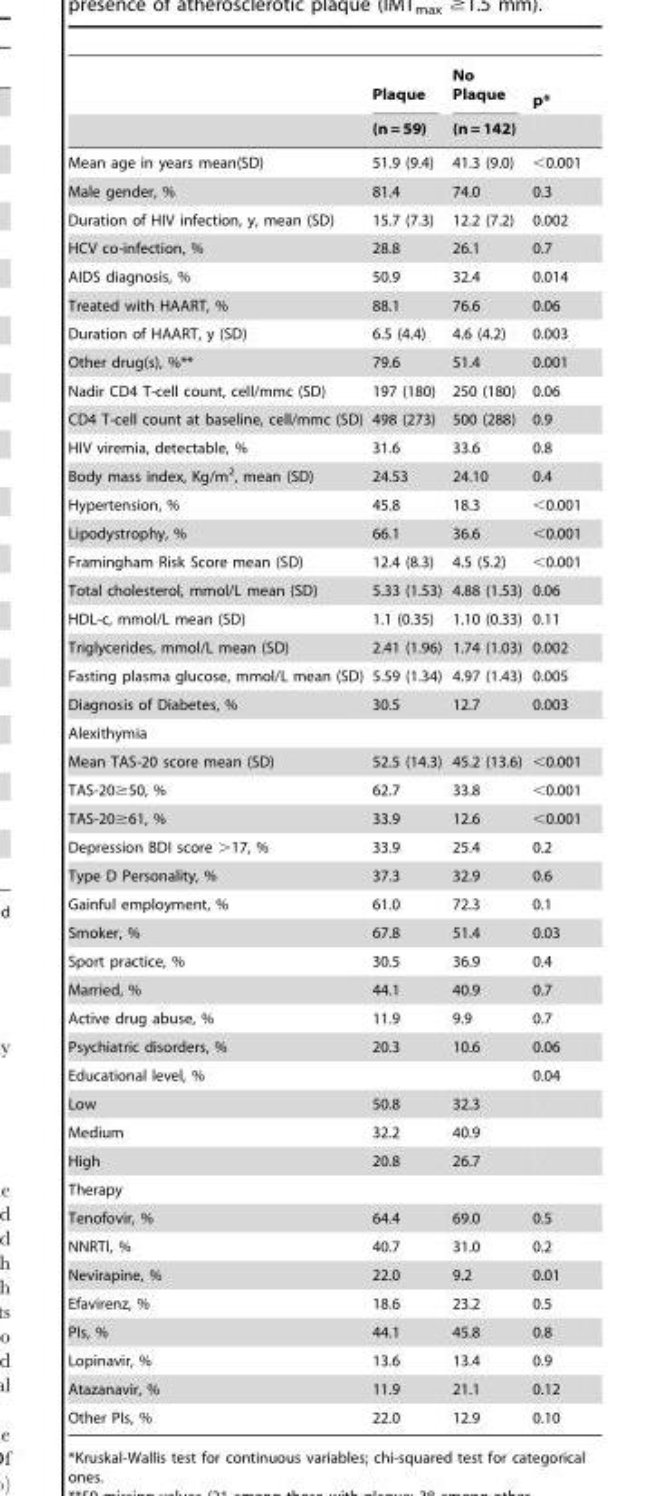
<table><thead><tr><td rowspan="2"></td><td rowspan="2">Plaque (n = 59)</td><td rowspan="2">No Plaque (n = 142)</td><td rowspan="2">p*</td></tr><tr></tr></thead><tbody><tr><td>Mean age in years mean(SD)</td><td>51.9 (9.4)</td><td>41.3 (9.0)</td><td>&lt;0.001</td></tr><tr><td>Male gender, %</td><td>81.4</td><td>74.0</td><td>0.3</td></tr><tr><td>Duration of HIV infection, y, mean (SD)</td><td>15.7 (7.3)</td><td>12.2 (7.2)</td><td>0.002</td></tr><tr><td>HCV co-infection, %</td><td>28.8</td><td>26.1</td><td>0.7</td></tr><tr><td>AIDS diagnosis, %</td><td>50.9</td><td>32.4</td><td>0.014</td></tr><tr><td>Treated with HAART, %</td><td>88.1</td><td>76.6</td><td>0.06</td></tr><tr><td>Duration of HAART, y (SD)</td><td>6.5 (4.4)</td><td>4.6 (4.2)</td><td>0.003</td></tr><tr><td>Other drug(s), %**</td><td>79.6</td><td>51.4</td><td>0.001</td></tr><tr><td>Nadir CD4 T-cell count, cell/mmc (SD)</td><td>197 (180)</td><td>250 (180)</td><td>0.06</td></tr><tr><td>CD4 T-cell count at baseline, cell/mmc (SD)</td><td>498 (273)</td><td>500 (288)</td><td>0.9</td></tr><tr><td>HIV viremia, detectable, %</td><td>31.6</td><td>33.6</td><td>0.8</td></tr><tr><td>Body mass index, Kg/m<sup>2</sup>, mean (SD)</td><td>24.53</td><td>24.10</td><td>0.4</td></tr><tr><td>Hypertension, %</td><td>45.8</td><td>18.3</td><td>&lt;0.001</td></tr><tr><td>Lipodystrophy, %</td><td>66.1</td><td>36.6</td><td>&lt;0.001</td></tr><tr><td>Framingham Risk Score mean (SD)</td><td>12.4 (8.3)</td><td>4.5 (5.2)</td><td>&lt;0.001</td></tr><tr><td>Total cholesterol, mmol/L mean (SD)</td><td>5.33 (1.53)</td><td>4.88 (1.53)</td><td>0.06</td></tr><tr><td>HDL-c, mmol/L mean (SD)</td><td>1.1 (0.35)</td><td>1.10 (0.33)</td><td>0.11</td></tr><tr><td>Triglycerides, mmol/L mean (SD)</td><td>2.41 (1.96)</td><td>1.74 (1.03)</td><td>0.002</td></tr><tr><td>Fasting plasma glucose, mmol/L mean (SD)</td><td>5.59 (1.34)</td><td>4.97 (1.43)</td><td>0.005</td></tr><tr><td>Diagnosis of Diabetes, %</td><td>30.5</td><td>12.7</td><td>0.003</td></tr><tr><td colspan="4">Alexithymia</td></tr><tr><td>Mean TAS-20 score mean (SD)</td><td>52.5 (14.3)</td><td>45.2 (13.6)</td><td>&lt;0.001</td></tr><tr><td>TAS-20≥50, %</td><td>62.7</td><td>33.8</td><td>&lt;0.001</td></tr><tr><td>TAS-20≥61, %</td><td>33.9</td><td>12.6</td><td>&lt;0.001</td></tr><tr><td>Depression BDI score &gt;17, %</td><td>33.9</td><td>25.4</td><td>0.2</td></tr><tr><td>Type D Personality, %</td><td>37.3</td><td>32.9</td><td>0.6</td></tr><tr><td>Gainful employment, %</td><td>61.0</td><td>72.3</td><td>0.1</td></tr><tr><td>Smoker, %</td><td>67.8</td><td>51.4</td><td>0.03</td></tr><tr><td>Sport practice, %</td><td>30.5</td><td>36.9</td><td>0.4</td></tr><tr><td>Married, %</td><td>44.1</td><td>40.9</td><td>0.7</td></tr><tr><td>Active drug abuse, %</td><td>11.9</td><td>9.9</td><td>0.7</td></tr><tr><td>Psychiatric disorders, %</td><td>20.3</td><td>10.6</td><td>0.06</td></tr><tr><td>Educational level, %</td><td></td><td></td><td>0.04</td></tr><tr><td>Low</td><td>50.8</td><td>32.3</td><td></td></tr><tr><td>Medium</td><td>32.2</td><td>40.9</td><td></td></tr><tr><td>High</td><td>20.8</td><td>26.7</td><td></td></tr><tr><td colspan="4">Therapy</td></tr><tr><td>Tenofovir, %</td><td>64.4</td><td>69.0</td><td>0.5</td></tr><tr><td>NNRTI, %</td><td>40.7</td><td>31.0</td><td>0.2</td></tr><tr><td>Nevirapine, %</td><td>22.0</td><td>9.2</td><td>0.01</td></tr><tr><td>Efavirenz, %</td><td>18.6</td><td>23.2</td><td>0.5</td></tr><tr><td>PIs, %</td><td>44.1</td><td>45.8</td><td>0.8</td></tr><tr><td>Lopinavir, %</td><td>13.6</td><td>13.4</td><td>0.9</td></tr><tr><td>Atazanavir, %</td><td>11.9</td><td>21.1</td><td>0.12</td></tr><tr><td>Other PIs, %</td><td>22.0</td><td>12.9</td><td>0.10</td></tr></tbody></table>